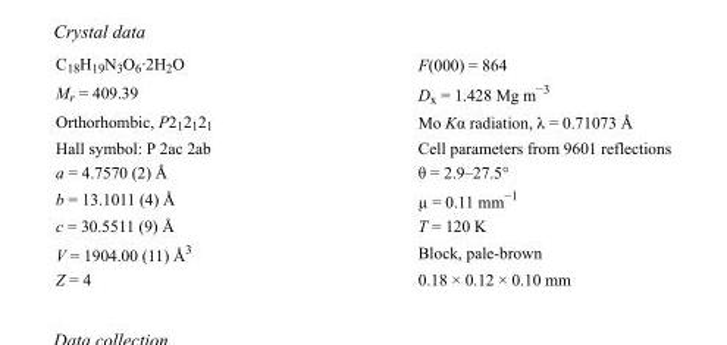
<table><tbody><tr><td>C<sub>18</sub>H<sub>19</sub>N<sub>3</sub>O<sub>6</sub>·2H<sub>2</sub>O</td><td>F(000) = 864</td></tr><tr><td>M<sub>r</sub> = 409.39</td><td>D<sub>x</sub> = 1.428 Mg m<sup>−3</sup></td></tr><tr><td>Orthorhombic, P2<sub>1</sub>2<sub>1</sub>2<sub>1</sub></td><td>Mo Kα radiation, λ = 0.71073 Å</td></tr><tr><td>Hall symbol: P 2ac 2ab</td><td>Cell parameters from 9601 reflections</td></tr><tr><td>a = 4.7570 (2) Å</td><td>θ = 2.9–27.5°</td></tr><tr><td>b = 13.1011 (4) Å</td><td>µ = 0.11 mm<sup>−1</sup></td></tr><tr><td>c = 30.5511 (9) Å</td><td>T = 120 K</td></tr><tr><td>V = 1904.00 (11) Å<sup>3</sup></td><td>Block, pale-brown</td></tr><tr><td>Z = 4</td><td>0.18 × 0.12 × 0.10 mm</td></tr></tbody></table>